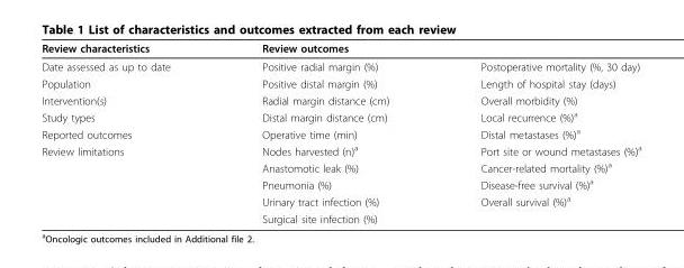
<table><thead><tr><td rowspan="2">Review characteristics Date assessed as up to date</td><td colspan="2">Review outcomes</td></tr><tr><td>Positive radial margin (%)</td><td>Postoperative mortality (%, 30 day)</td></tr></thead><tbody><tr><td>Population</td><td>Positive distal margin (%)</td><td>Length of hospital stay (days)</td></tr><tr><td>Intervention(s)</td><td>Radial margin distance (cm)</td><td>Overall morbidity (%)</td></tr><tr><td>Study types</td><td>Distal margin distance (cm)</td><td>Local recurrence (%)<sup>a</sup></td></tr><tr><td>Reported outcomes</td><td>Operative time (min)</td><td>Distal metastases (%)<sup>a</sup></td></tr><tr><td rowspan="5">Review limitations</td><td>Nodes harvested (n)<sup>a</sup></td><td>Port site or wound metastases (%)<sup>a</sup></td></tr><tr><td>Anastomotic leak (%)</td><td>Cancer-related mortality (%)<sup>a</sup></td></tr><tr><td>Pneumonia (%)</td><td>Disease-free survival (%)<sup>a</sup></td></tr><tr><td>Urinary tract infection (%)</td><td>Overall survival (%)<sup>a</sup></td></tr><tr><td>Surgical site infection (%)</td><td></td></tr></tbody></table>